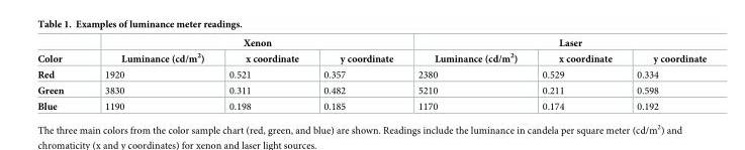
<table><thead><tr><td rowspan="2">Color</td><td colspan="3">Xenon</td><td colspan="3">Laser</td></tr><tr><td>Luminance (cd/m<sup>2</sup>)</td><td>x coordinate</td><td>y coordinate</td><td>Luminance (cd/m<sup>2</sup>)</td><td>x coordinate</td><td>y coordinate</td></tr></thead><tbody><tr><td>Red</td><td>1920</td><td>0.521</td><td>0.357</td><td>2380</td><td>0.529</td><td>0.334</td></tr><tr><td>Green</td><td>3830</td><td>0.311</td><td>0.482</td><td>5210</td><td>0.211</td><td>0.598</td></tr><tr><td>Blue</td><td>1190</td><td>0.198</td><td>0.185</td><td>1170</td><td>0.174</td><td>0.192</td></tr></tbody></table>